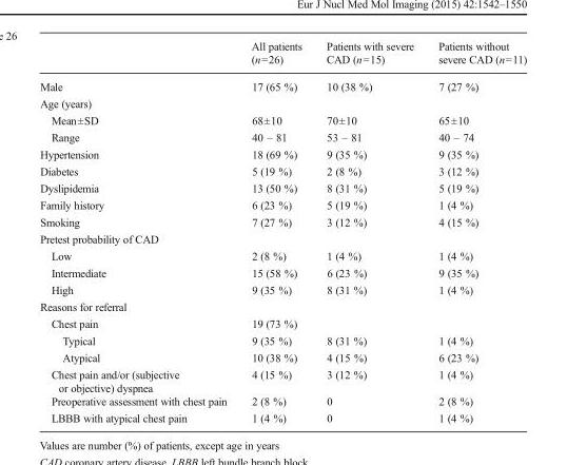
<table><thead><tr><td></td><td>All patients (n=26)</td><td>Patients with severe CAD (n=15)</td><td>Patients without severe CAD (n=11)</td></tr></thead><tbody><tr><td>Male</td><td>17 (65 %)</td><td>10 (38 %)</td><td>7 (27 %)</td></tr><tr><td colspan="4">Age (years)</td></tr><tr><td>Mean±SD</td><td>68±10</td><td>70±10</td><td>65±10</td></tr><tr><td>Range</td><td>40 – 81</td><td>53 – 81</td><td>40 – 74</td></tr><tr><td>Hypertension</td><td>18 (69 %)</td><td>9 (35 %)</td><td>9 (35 %)</td></tr><tr><td>Diabetes</td><td>5 (19 %)</td><td>2 (8 %)</td><td>3 (12 %)</td></tr><tr><td>Dyslipidemia</td><td>13 (50 %)</td><td>8 (31 %)</td><td>5 (19 %)</td></tr><tr><td>Family history</td><td>6 (23 %)</td><td>5 (19 %)</td><td>1 (4 %)</td></tr><tr><td>Smoking</td><td>7 (27 %)</td><td>3 (12 %)</td><td>4 (15 %)</td></tr><tr><td colspan="4">Pretest probability of CAD</td></tr><tr><td>Low</td><td>2 (8 %)</td><td>1 (4 %)</td><td>1 (4 %)</td></tr><tr><td>Intermediate</td><td>15 (58 %)</td><td>6 (23 %)</td><td>9 (35 %)</td></tr><tr><td>High</td><td>9 (35 %)</td><td>8 (31 %)</td><td>1 (4 %)</td></tr><tr><td colspan="4">Reasons for referral</td></tr><tr><td>Chest pain</td><td>19 (73 %)</td><td></td><td></td></tr><tr><td>Typical</td><td>9 (35 %)</td><td>8 (31 %)</td><td>1 (4 %)</td></tr><tr><td>Atypical</td><td>10 (38 %)</td><td>4 (15 %)</td><td>6 (23 %)</td></tr><tr><td>Chest pain and/or (subjective or objective) dyspnea</td><td>4 (15 %)</td><td>3 (12 %)</td><td>1 (4 %)</td></tr><tr><td>Preoperative assessment with chest pain</td><td>2 (8 %)</td><td>0</td><td>2 (8 %)</td></tr><tr><td>LBBB with atypical chest pain</td><td>1 (4 %)</td><td>0</td><td>1 (4 %)</td></tr></tbody></table>